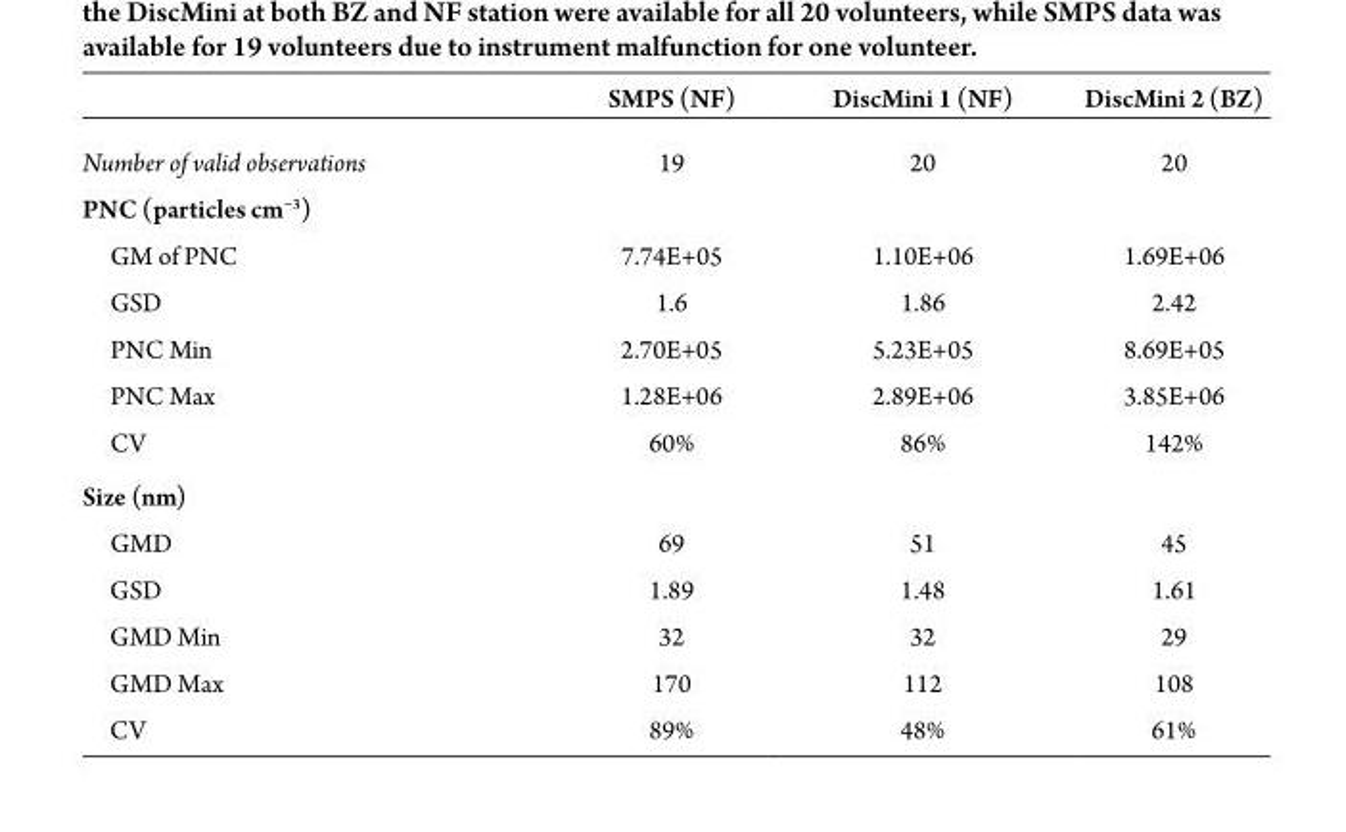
<table><thead><tr><td></td><td>SMPS (NF)</td><td>DiscMini 1 (NF)</td><td>DiscMini 2 (BZ)</td></tr></thead><tbody><tr><td>Number of valid observations</td><td>19</td><td>20</td><td>20</td></tr><tr><td colspan="4">PNC (particles cm<sup>−3</sup>)</td></tr><tr><td>GM of PNC</td><td>7.74E+05</td><td>1.10E+06</td><td>1.69E+06</td></tr><tr><td>GSD</td><td>1.6</td><td>1.86</td><td>2.42</td></tr><tr><td>PNC Min</td><td>2.70E+05</td><td>5.23E+05</td><td>8.69E+05</td></tr><tr><td>PNC Max</td><td>1.28E+06</td><td>2.89E+06</td><td>3.85E+06</td></tr><tr><td>CV</td><td>60%</td><td>86%</td><td>142%</td></tr><tr><td colspan="4">Size (nm)</td></tr><tr><td>GMD</td><td>69</td><td>51</td><td>45</td></tr><tr><td>GSD</td><td>1.89</td><td>1.48</td><td>1.61</td></tr><tr><td>GMD Min</td><td>32</td><td>32</td><td>29</td></tr><tr><td>GMD Max</td><td>170</td><td>112</td><td>108</td></tr><tr><td>CV</td><td>89%</td><td>48%</td><td>61%</td></tr></tbody></table>